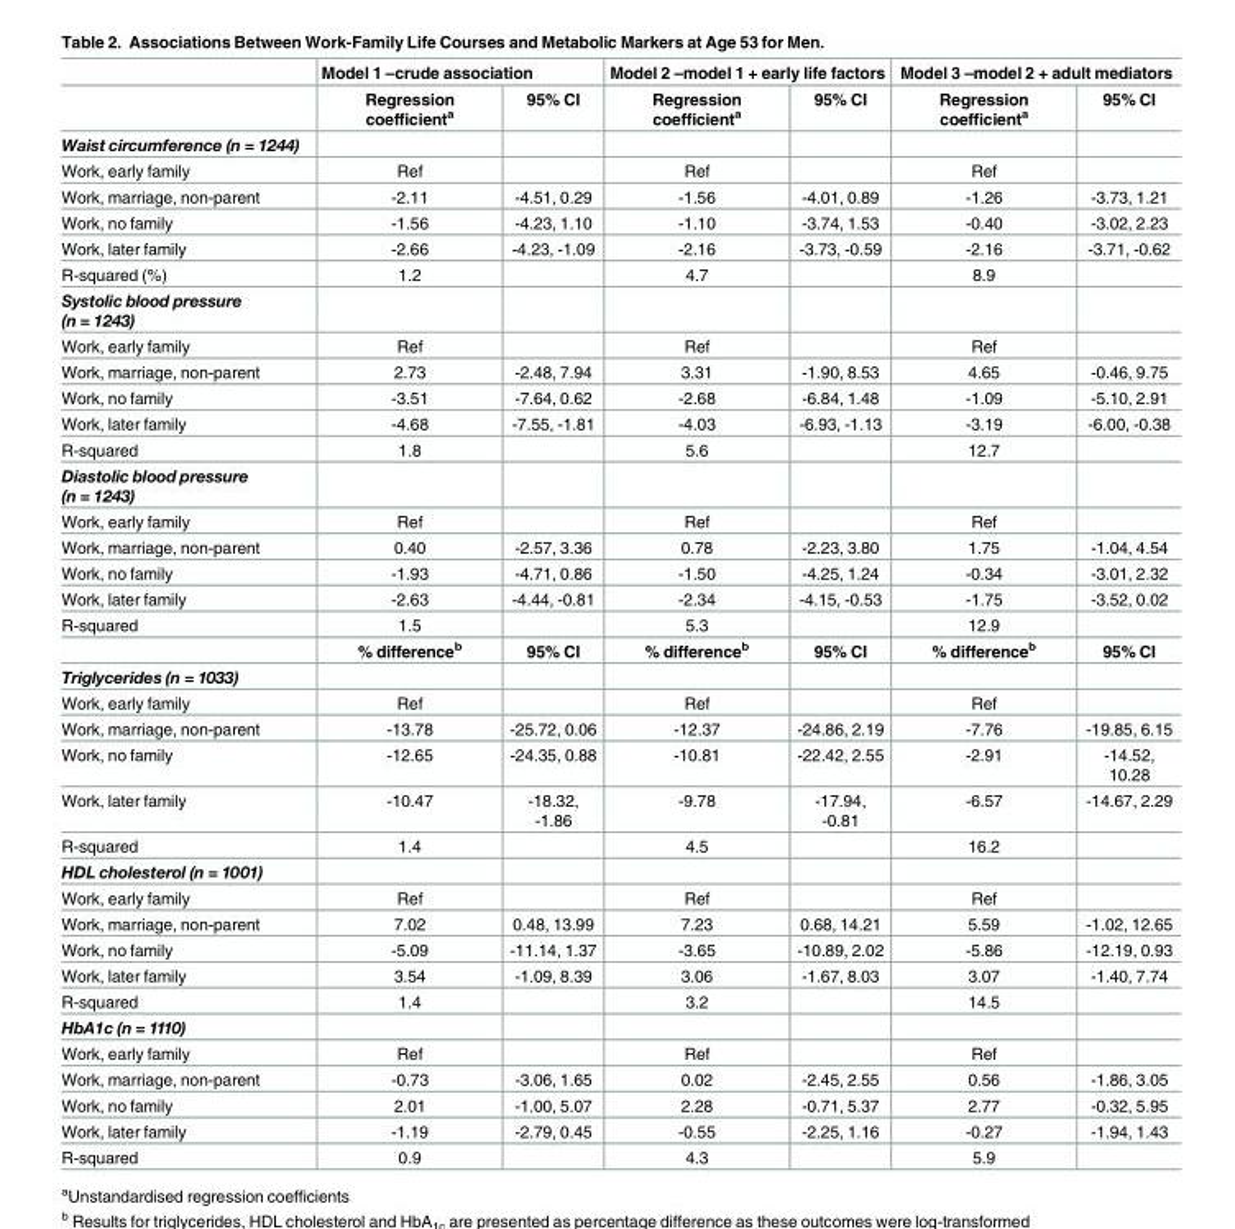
<table><thead><tr><td rowspan="2"></td><td colspan="2">Model 1 –crude association</td><td colspan="2">Model 2 –model 1 + early life factors</td><td colspan="2">Model 3 –model 2 + adult mediators</td></tr><tr><td>Regression coefficient<sup>a</sup></td><td>95% CI</td><td>Regression coefficient<sup>a</sup></td><td>95% CI</td><td>Regression coefficient<sup>a</sup></td><td>95% CI</td></tr></thead><tbody><tr><td colspan="7">Waist circumference (n = 1244)</td></tr><tr><td>Work, early family</td><td>Ref</td><td></td><td>Ref</td><td></td><td>Ref</td><td></td></tr><tr><td>Work, marriage, non-parent</td><td>-2.11</td><td>-4.51, 0.29</td><td>-1.56</td><td>-4.01, 0.89</td><td>-1.26</td><td>-3.73, 1.21</td></tr><tr><td>Work, no family</td><td>-1.56</td><td>-4.23, 1.10</td><td>-1.10</td><td>-3.74, 1.53</td><td>-0.40</td><td>-3.02, 2.23</td></tr><tr><td>Work, later family</td><td>-2.66</td><td>-4.23, -1.09</td><td>-2.16</td><td>-3.73, -0.59</td><td>-2.16</td><td>-3.71, -0.62</td></tr><tr><td>R-squared (%)</td><td>1.2</td><td></td><td>4.7</td><td></td><td>8.9</td><td></td></tr><tr><td colspan="7">Systolic blood pressure (n = 1243)</td></tr><tr><td>Work, early family</td><td>Ref</td><td></td><td>Ref</td><td></td><td>Ref</td><td></td></tr><tr><td>Work, marriage, non-parent</td><td>2.73</td><td>-2.48, 7.94</td><td>3.31</td><td>-1.90, 8.53</td><td>4.65</td><td>-0.46, 9.75</td></tr><tr><td>Work, no family</td><td>-3.51</td><td>-7.64, 0.62</td><td>-2.68</td><td>-6.84, 1.48</td><td>-1.09</td><td>-5.10, 2.91</td></tr><tr><td>Work, later family</td><td>-4.68</td><td>-7.55, -1.81</td><td>-4.03</td><td>-6.93, -1.13</td><td>-3.19</td><td>-6.00, -0.38</td></tr><tr><td>R-squared</td><td>1.8</td><td></td><td>5.6</td><td></td><td>12.7</td><td></td></tr><tr><td colspan="7">Diastolic blood pressure (n = 1243)</td></tr><tr><td>Work, early family</td><td>Ref</td><td></td><td>Ref</td><td></td><td>Ref</td><td></td></tr><tr><td>Work, marriage, non-parent</td><td>0.40</td><td>-2.57, 3.36</td><td>0.78</td><td>-2.23, 3.80</td><td>1.75</td><td>-1.04, 4.54</td></tr><tr><td>Work, no family</td><td>-1.93</td><td>-4.71, 0.86</td><td>-1.50</td><td>-4.25, 1.24</td><td>-0.34</td><td>-3.01, 2.32</td></tr><tr><td>Work, later family</td><td>-2.63</td><td>-4.44, -0.81</td><td>-2.34</td><td>-4.15, -0.53</td><td>-1.75</td><td>-3.52, 0.02</td></tr><tr><td rowspan="2">R-squared</td><td>1.5</td><td></td><td>5.3</td><td></td><td>12.9</td><td></td></tr><tr><td>% difference<sup>b</sup></td><td>95% CI</td><td>% difference<sup>b</sup></td><td>95% CI</td><td>% difference<sup>b</sup></td><td>95% CI</td></tr><tr><td colspan="7">Triglycerides (n = 1033)</td></tr><tr><td>Work, early family</td><td>Ref</td><td></td><td>Ref</td><td></td><td>Ref</td><td></td></tr><tr><td>Work, marriage, non-parent</td><td>-13.78</td><td>-25.72, 0.06</td><td>-12.37</td><td>-24.86, 2.19</td><td>-7.76</td><td>-19.85, 6.15</td></tr><tr><td>Work, no family</td><td>-12.65</td><td>-24.35, 0.88</td><td>-10.81</td><td>-22.42, 2.55</td><td>-2.91</td><td>-14.52, 10.28</td></tr><tr><td>Work, later family</td><td>-10.47</td><td>-18.32, -1.86</td><td>-9.78</td><td>-17.94, -0.81</td><td>-6.57</td><td>-14.67, 2.29</td></tr><tr><td>R-squared</td><td>1.4</td><td></td><td>4.5</td><td></td><td>16.2</td><td></td></tr><tr><td colspan="7">HDL cholesterol (n = 1001)</td></tr><tr><td>Work, early family</td><td>Ref</td><td></td><td>Ref</td><td></td><td>Ref</td><td></td></tr><tr><td>Work, marriage, non-parent</td><td>7.02</td><td>0.48, 13.99</td><td>7.23</td><td>0.68, 14.21</td><td>5.59</td><td>-1.02, 12.65</td></tr><tr><td>Work, no family</td><td>-5.09</td><td>-11.14, 1.37</td><td>-3.65</td><td>-10.89, 2.02</td><td>-5.86</td><td>-12.19, 0.93</td></tr><tr><td>Work, later family</td><td>3.54</td><td>-1.09, 8.39</td><td>3.06</td><td>-1.67, 8.03</td><td>3.07</td><td>-1.40, 7.74</td></tr><tr><td>R-squared</td><td>1.4</td><td></td><td>3.2</td><td></td><td>14.5</td><td></td></tr><tr><td colspan="7">HbA1c (n = 1110)</td></tr><tr><td>Work, early family</td><td>Ref</td><td></td><td>Ref</td><td></td><td>Ref</td><td></td></tr><tr><td>Work, marriage, non-parent</td><td>-0.73</td><td>-3.06, 1.65</td><td>0.02</td><td>-2.45, 2.55</td><td>0.56</td><td>-1.86, 3.05</td></tr><tr><td>Work, no family</td><td>2.01</td><td>-1.00, 5.07</td><td>2.28</td><td>-0.71, 5.37</td><td>2.77</td><td>-0.32, 5.95</td></tr><tr><td>Work, later family</td><td>-1.19</td><td>-2.79, 0.45</td><td>-0.55</td><td>-2.25, 1.16</td><td>-0.27</td><td>-1.94, 1.43</td></tr><tr><td>R-squared</td><td>0.9</td><td></td><td>4.3</td><td></td><td>5.9</td><td></td></tr></tbody></table>